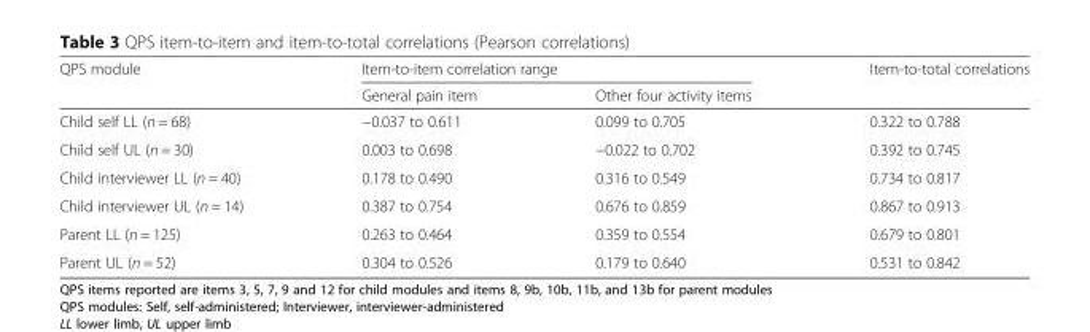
<table><thead><tr><td rowspan="2">QPS module</td><td colspan="2">Item-to-item correlation range</td><td rowspan="2">Item-to-total correlations</td></tr><tr><td>General pain item</td><td>Other four activity items</td></tr></thead><tbody><tr><td>Child self LL (n = 68)</td><td>−0.037 to 0.611</td><td>0.099 to 0.705</td><td>0.322 to 0.788</td></tr><tr><td>Child self UL (n = 30)</td><td>0.003 to 0.698</td><td>−0.022 to 0.702</td><td>0.392 to 0.745</td></tr><tr><td>Child interviewer LL (n = 40)</td><td>0.178 to 0.490</td><td>0.316 to 0.549</td><td>0.734 to 0.817</td></tr><tr><td>Child interviewer UL (n = 14)</td><td>0.387 to 0.754</td><td>0.676 to 0.859</td><td>0.867 to 0.913</td></tr><tr><td>Parent LL (n = 125)</td><td>0.263 to 0.464</td><td>0.359 to 0.554</td><td>0.679 to 0.801</td></tr><tr><td>Parent UL (n = 52)</td><td>0.304 to 0.526</td><td>0.179 to 0.640</td><td>0.531 to 0.842</td></tr></tbody></table>